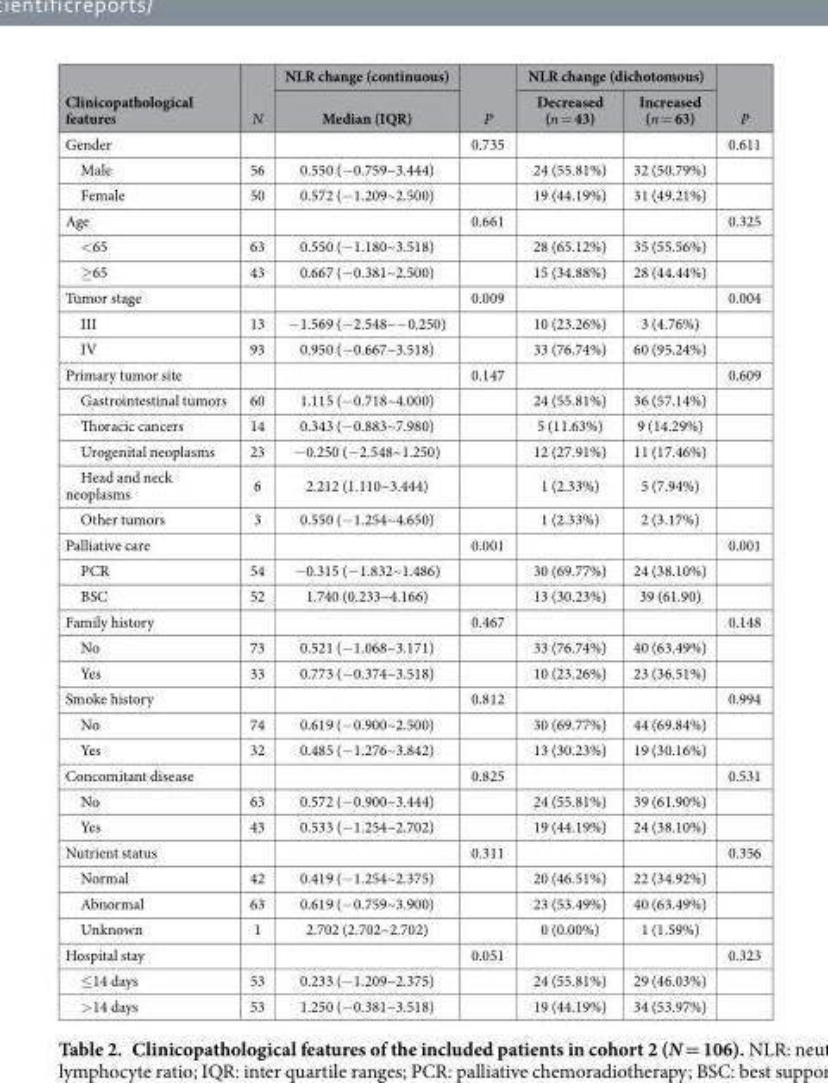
<table><thead><tr><td rowspan="2">Clinicopathological features</td><td rowspan="2">N</td><td rowspan="2">NLR change (continuous) Median (IQR)</td><td rowspan="2">P</td><td colspan="2">NLR change (dichotomous)</td><td rowspan="2">P</td></tr><tr><td>Decreased (n = 43)</td><td>Increased (n = 63)</td></tr></thead><tbody><tr><td>Gender</td><td></td><td></td><td>0.735</td><td></td><td></td><td>0.611</td></tr><tr><td>Male</td><td>56</td><td>0.550 (− 0.759~3.444)</td><td></td><td>24 (55.81%)</td><td>32 (50.79%)</td><td></td></tr><tr><td>Female</td><td>50</td><td>0.572 (− 1.209~2.500)</td><td></td><td>19 (44.19%)</td><td>31 (49.21%)</td><td></td></tr><tr><td>Age</td><td></td><td></td><td>0.661</td><td></td><td></td><td>0.325</td></tr><tr><td>&lt; 65</td><td>63</td><td>0.550 (− 1.180~3.518)</td><td></td><td>28 (65.12%)</td><td>35 (55.56%)</td><td></td></tr><tr><td>≥ 65</td><td>43</td><td>0.667 (− 0.381~2.500)</td><td></td><td>15 (34.88%)</td><td>28 (44.44%)</td><td></td></tr><tr><td>Tumor stage</td><td></td><td></td><td>0.009</td><td></td><td></td><td>0.004</td></tr><tr><td>III</td><td>13</td><td>− 1.569 (− 2.548~− 0.250)</td><td></td><td>10 (23.26%)</td><td>3 (4.76%)</td><td></td></tr><tr><td>IV</td><td>93</td><td>0.950 (− 0.667~3.518)</td><td></td><td>33 (76.74%)</td><td>60 (95.24%)</td><td></td></tr><tr><td>Primary tumor site</td><td></td><td></td><td>0.147</td><td></td><td></td><td>0.609</td></tr><tr><td>Gastrointestinal tumors</td><td>60</td><td>1.115 (− 0.718~4.000)</td><td></td><td>24 (55.81%)</td><td>36 (57.14%)</td><td></td></tr><tr><td>Thoracic cancers</td><td>14</td><td>0.343 (− 0.883~7.980)</td><td></td><td>5 (11.63%)</td><td>9 (14.29%)</td><td></td></tr><tr><td>Urogenital neoplasms</td><td>23</td><td>− 0.250 (− 2.548~1.250)</td><td></td><td>12 (27.91%)</td><td>11 (17.46%)</td><td></td></tr><tr><td>Head and neck neoplasms</td><td>6</td><td>2.212 (1.110~3.444)</td><td></td><td>1 (2.33%)</td><td>5 (7.94%)</td><td></td></tr><tr><td>Other tumors</td><td>3</td><td>0.550 (− 1.254~4.650)</td><td></td><td>1 (2.33%)</td><td>2 (3.17%)</td><td></td></tr><tr><td>Palliative care</td><td></td><td></td><td>0.001</td><td></td><td></td><td>0.001</td></tr><tr><td>PCR</td><td>54</td><td>− 0.315 (− 1.832~1.486)</td><td></td><td>30 (69.77%)</td><td>24 (38.10%)</td><td></td></tr><tr><td>BSC</td><td>52</td><td>1.740 (0.233~4.166)</td><td></td><td>13 (30.23%)</td><td>39 (61.90)</td><td></td></tr><tr><td>Family history</td><td></td><td></td><td>0.467</td><td></td><td></td><td>0.148</td></tr><tr><td>No</td><td>73</td><td>0.521 (− 1.068~3.171)</td><td></td><td>33 (76.74%)</td><td>40 (63.49%)</td><td></td></tr><tr><td>Yes</td><td>33</td><td>0.773 (− 0.374~3.518)</td><td></td><td>10 (23.26%)</td><td>23 (36.51%)</td><td></td></tr><tr><td>Smoke history</td><td></td><td></td><td>0.812</td><td></td><td></td><td>0.994</td></tr><tr><td>No</td><td>74</td><td>0.619 (− 0.900~2.500)</td><td></td><td>30 (69.77%)</td><td>44 (69.84%)</td><td></td></tr><tr><td>Yes</td><td>32</td><td>0.485 (− 1.276~3.842)</td><td></td><td>13 (30.23%)</td><td>19 (30.16%)</td><td></td></tr><tr><td>Concomitant disease</td><td></td><td></td><td>0.825</td><td></td><td></td><td>0.531</td></tr><tr><td>No</td><td>63</td><td>0.572 (− 0.900~3.444)</td><td></td><td>24 (55.81%)</td><td>39 (61.90%)</td><td></td></tr><tr><td>Yes</td><td>43</td><td>0.533 (− 1.254~2.702)</td><td></td><td>19 (44.19%)</td><td>24 (38.10%)</td><td></td></tr><tr><td>Nutrient status</td><td></td><td></td><td>0.311</td><td></td><td></td><td>0.356</td></tr><tr><td>Normal</td><td>42</td><td>0.419 (− 1.254~2.375)</td><td></td><td>20 (46.51%)</td><td>22 (34.92%)</td><td></td></tr><tr><td>Abnormal</td><td>63</td><td>0.619 (− 0.759~3.900)</td><td></td><td>23 (53.49%)</td><td>40 (63.49%)</td><td></td></tr><tr><td>Unknown</td><td>1</td><td>2.702 (2.702~2.702)</td><td></td><td>0 (0.00%)</td><td>1 (1.59%)</td><td></td></tr><tr><td>Hospital stay</td><td></td><td></td><td>0.051</td><td></td><td></td><td>0.323</td></tr><tr><td>≤ 14 days</td><td>53</td><td>0.233 (− 1.209~2.375)</td><td></td><td>24 (55.81%)</td><td>29 (46.03%)</td><td></td></tr><tr><td>&gt; 14 days</td><td>53</td><td>1.250 (− 0.381~3.518)</td><td></td><td>19 (44.19%)</td><td>34 (53.97%)</td><td></td></tr></tbody></table>